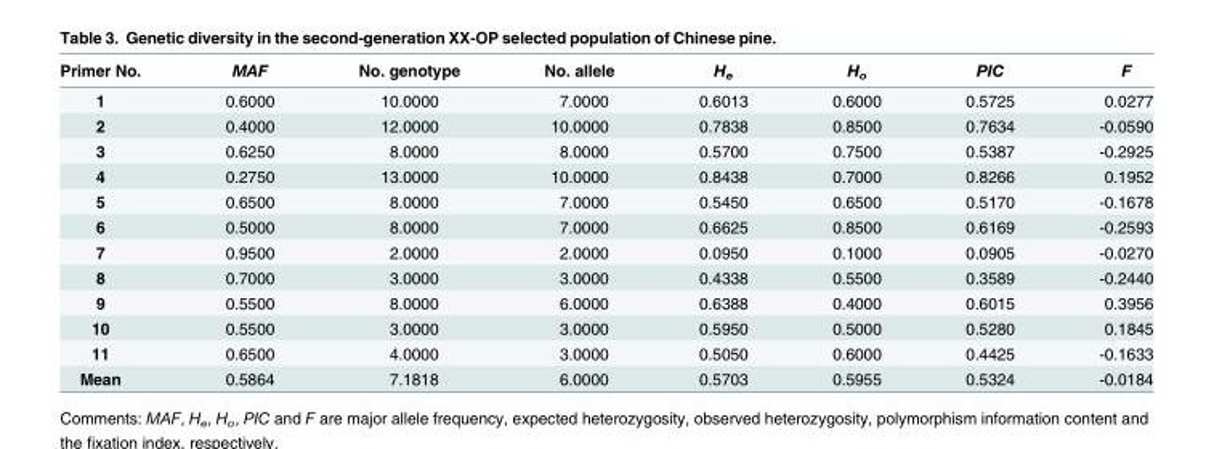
<table><thead><tr><td>Primer No.</td><td>MAF</td><td>No. genotype</td><td>No. allele</td><td>H<sub>e</sub></td><td>H<sub>o</sub></td><td>PIC</td><td>F</td></tr></thead><tbody><tr><td>1</td><td>0.6000</td><td>10.0000</td><td>7.0000</td><td>0.6013</td><td>0.6000</td><td>0.5725</td><td>0.0277</td></tr><tr><td>2</td><td>0.4000</td><td>12.0000</td><td>10.0000</td><td>0.7838</td><td>0.8500</td><td>0.7634</td><td>-0.0590</td></tr><tr><td>3</td><td>0.6250</td><td>8.0000</td><td>8.0000</td><td>0.5700</td><td>0.7500</td><td>0.5387</td><td>-0.2925</td></tr><tr><td>4</td><td>0.2750</td><td>13.0000</td><td>10.0000</td><td>0.8438</td><td>0.7000</td><td>0.8266</td><td>0.1952</td></tr><tr><td>5</td><td>0.6500</td><td>8.0000</td><td>7.0000</td><td>0.5450</td><td>0.6500</td><td>0.5170</td><td>-0.1678</td></tr><tr><td>6</td><td>0.5000</td><td>8.0000</td><td>7.0000</td><td>0.6625</td><td>0.8500</td><td>0.6169</td><td>-0.2593</td></tr><tr><td>7</td><td>0.9500</td><td>2.0000</td><td>2.0000</td><td>0.0950</td><td>0.1000</td><td>0.0905</td><td>-0.0270</td></tr><tr><td>8</td><td>0.7000</td><td>3.0000</td><td>3.0000</td><td>0.4338</td><td>0.5500</td><td>0.3589</td><td>-0.2440</td></tr><tr><td>9</td><td>0.5500</td><td>8.0000</td><td>6.0000</td><td>0.6388</td><td>0.4000</td><td>0.6015</td><td>0.3956</td></tr><tr><td>10</td><td>0.5500</td><td>3.0000</td><td>3.0000</td><td>0.5950</td><td>0.5000</td><td>0.5280</td><td>0.1845</td></tr><tr><td>11</td><td>0.6500</td><td>4.0000</td><td>3.0000</td><td>0.5050</td><td>0.6000</td><td>0.4425</td><td>-0.1633</td></tr><tr><td>Mean</td><td>0.5864</td><td>7.1818</td><td>6.0000</td><td>0.5703</td><td>0.5955</td><td>0.5324</td><td>-0.0184</td></tr></tbody></table>